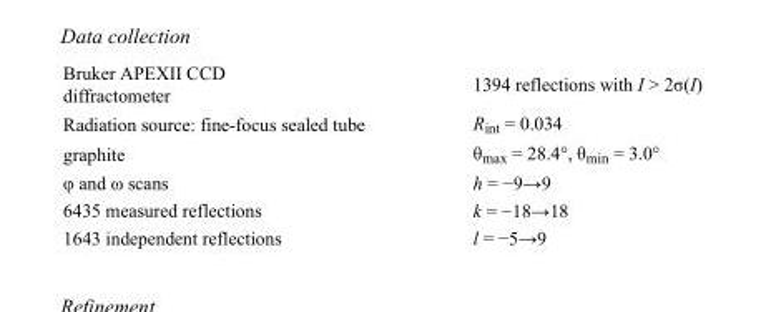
<table><tbody><tr><td>Bruker APEXII CCD diffractometer</td><td>1394 reflections with I &gt; 2σ(I)</td></tr><tr><td>Radiation source: fine-focus sealed tube</td><td>R<sub>int</sub> = 0.034</td></tr><tr><td>graphite</td><td>θ<sub>max</sub> = 28.4°, θ<sub>min</sub> = 3.0°</td></tr><tr><td>φ and ω scans</td><td>h = −9→9</td></tr><tr><td>6435 measured reflections</td><td>k = −18→18</td></tr><tr><td>1643 independent reflections</td><td>l = −5→9</td></tr></tbody></table>